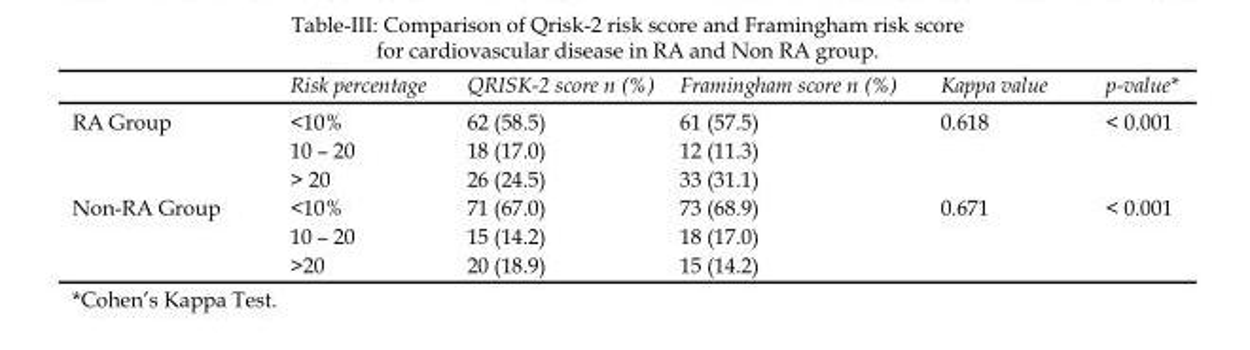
<table><thead><tr><td></td><td>Risk percentage</td><td>QRISK-2 score n (%)</td><td>Framingham score n (%)</td><td>Kappa value</td><td>p-value*</td></tr></thead><tbody><tr><td rowspan="3">RA Group</td><td>&lt;10%</td><td>62 (58.5)</td><td>61 (57.5)</td><td rowspan="3">0.618</td><td rowspan="3">&lt; 0.001</td></tr><tr><td>10 – 20</td><td>18 (17.0)</td><td>12 (11.3)</td></tr><tr><td>&gt; 20</td><td>26 (24.5)</td><td>33 (31.1)</td></tr><tr><td rowspan="3">Non-RA Group</td><td>&lt;10%</td><td>71 (67.0)</td><td>73 (68.9)</td><td rowspan="3">0.671</td><td rowspan="3">&lt; 0.001</td></tr><tr><td>10 – 20</td><td>15 (14.2)</td><td>18 (17.0)</td></tr><tr><td>&gt;20</td><td>20 (18.9)</td><td>15 (14.2)</td></tr></tbody></table>